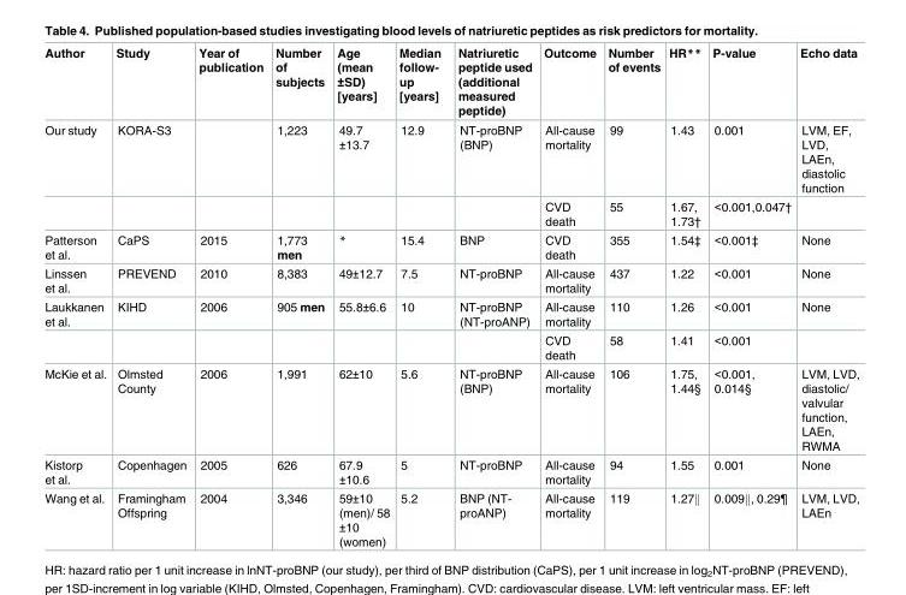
<table><thead><tr><td>Author</td><td>Study</td><td>Year of publication</td><td>Number of subjects</td><td>Age (mean ±SD) [years]</td><td>Median follow- up [years]</td><td>Natriuretic peptide used (additional measured peptide)</td><td>Outcome</td><td>Number of events</td><td>HR**</td><td>P-value</td><td>Echo data</td></tr></thead><tbody><tr><td rowspan="2">Our study</td><td>KORA-S3</td><td></td><td>1,223</td><td>49.7 ±13.7</td><td>12.9</td><td>NT-proBNP (BNP)</td><td>All-cause mortality</td><td>99</td><td>1.43</td><td>0.001</td><td>LVM, EF, LVD, LAEn, diastolic function</td></tr><tr><td></td><td></td><td></td><td></td><td></td><td></td><td>CVD death</td><td>55</td><td>1.67, 1.73†</td><td>&lt;0.001,0.047†</td><td></td></tr><tr><td>Patterson et al.</td><td>CaPS</td><td>2015</td><td>1,773 men</td><td>*</td><td>15.4</td><td>BNP</td><td>CVD death</td><td>355</td><td>1.54‡</td><td>&lt;0.001‡</td><td>None</td></tr><tr><td>Linssen et al.</td><td>PREVEND</td><td>2010</td><td>8,383</td><td>49±12.7</td><td>7.5</td><td>NT-proBNP</td><td>All-cause mortality</td><td>437</td><td>1.22</td><td>&lt;0.001</td><td>None</td></tr><tr><td rowspan="2">Laukkanen et al.</td><td>KIHD</td><td>2006</td><td>905 men</td><td>55.8±6.6</td><td>10</td><td>NT-proBNP (NT-proANP)</td><td>All-cause mortality</td><td>110</td><td>1.26</td><td>&lt;0.001</td><td>None</td></tr><tr><td></td><td></td><td></td><td></td><td></td><td></td><td>CVD death</td><td>58</td><td>1.41</td><td>&lt;0.001</td><td></td></tr><tr><td>McKie et al.</td><td>Olmsted County</td><td>2006</td><td>1,991</td><td>62±10</td><td>5.6</td><td>NT-proBNP (BNP)</td><td>All-cause mortality</td><td>106</td><td>1.75, 1.44§</td><td>&lt;0.001, 0.014§</td><td>LVM, LVD, diastolic/ valvular function, LAEn, RWMA</td></tr><tr><td>Kistorp et al.</td><td>Copenhagen</td><td>2005</td><td>626</td><td>67.9 ±10.6</td><td>5</td><td>NT-proBNP</td><td>All-cause mortality</td><td>94</td><td>1.55</td><td>0.001</td><td>None</td></tr><tr><td>Wang et al.</td><td>Framingham Offspring</td><td>2004</td><td>3,346</td><td>59±10 (men)/ 58 ±10 (women)</td><td>5.2</td><td>BNP (NT- proANP)</td><td>All-cause mortality</td><td>119</td><td>1.27k</td><td>0.009k, 0.29¶</td><td>LVM, LVD, LAEn</td></tr></tbody></table>